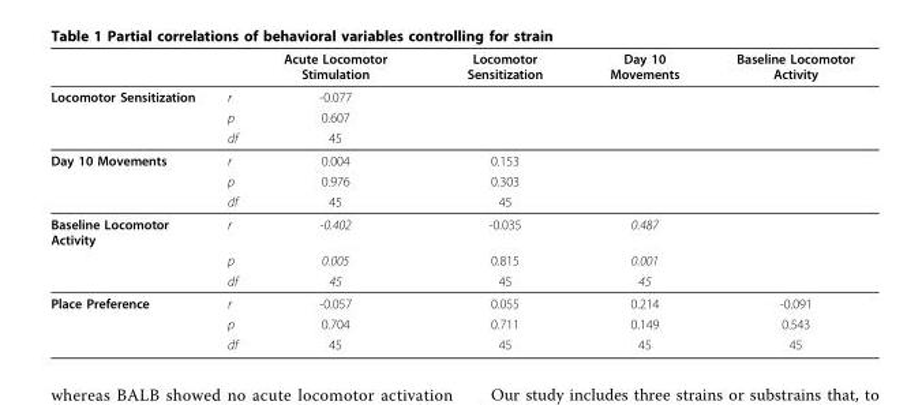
<table><thead><tr><td></td><td></td><td>Acute Locomotor Stimulation</td><td>Locomotor Sensitization</td><td>Day 10 Movements</td><td>Baseline Locomotor Activity</td></tr></thead><tbody><tr><td rowspan="3">Locomotor Sensitization</td><td>r</td><td>-0.077</td><td></td><td></td><td></td></tr><tr><td>p</td><td>0.607</td><td></td><td></td><td></td></tr><tr><td>df</td><td>45</td><td></td><td></td><td></td></tr><tr><td rowspan="3">Day 10 Movements</td><td>r</td><td>0.004</td><td>0.153</td><td></td><td></td></tr><tr><td>p</td><td>0.976</td><td>0.303</td><td></td><td></td></tr><tr><td>df</td><td>45</td><td>45</td><td></td><td></td></tr><tr><td rowspan="3">Baseline Locomotor Activity</td><td>r</td><td>-0.402</td><td>-0.035</td><td>0.487</td><td></td></tr><tr><td>p</td><td>0.005</td><td>0.815</td><td>0.001</td><td></td></tr><tr><td>df</td><td>45</td><td>45</td><td>45</td><td></td></tr><tr><td rowspan="3">Place Preference</td><td>r</td><td>-0.057</td><td>0.055</td><td>0.214</td><td>-0.091</td></tr><tr><td>p</td><td>0.704</td><td>0.711</td><td>0.149</td><td>0.543</td></tr><tr><td>df</td><td>45</td><td>45</td><td>45</td><td>45</td></tr></tbody></table>